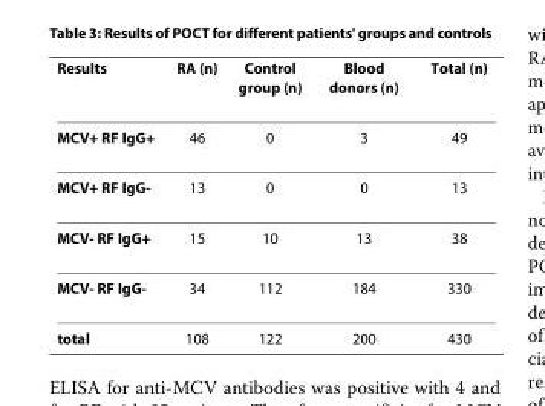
<table><thead><tr><td>Results</td><td>RA (n)</td><td>Control group (n)</td><td>Blood donors (n)</td><td>Total (n)</td></tr></thead><tbody><tr><td>MCV+ RF IgG+</td><td>46</td><td>0</td><td>3</td><td>49</td></tr><tr><td>MCV+ RF IgG-</td><td>13</td><td>0</td><td>0</td><td>13</td></tr><tr><td>MCV- RF IgG+</td><td>15</td><td>10</td><td>13</td><td>38</td></tr><tr><td>MCV- RF IgG-</td><td>34</td><td>112</td><td>184</td><td>330</td></tr><tr><td>total</td><td>108</td><td>122</td><td>200</td><td>430</td></tr></tbody></table>